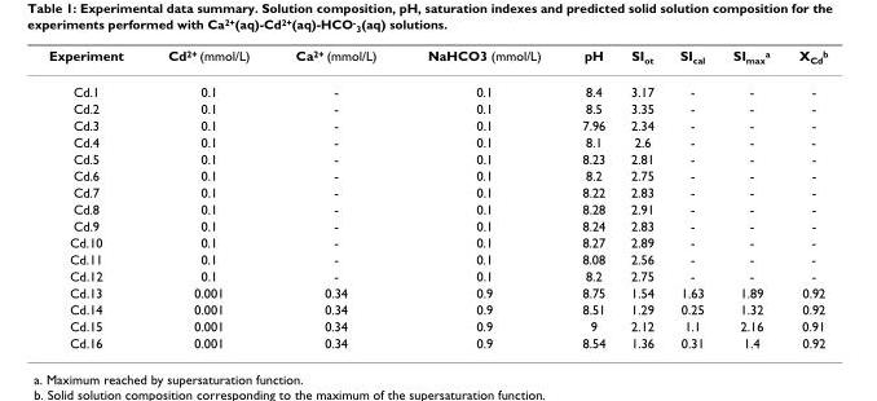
<table><thead><tr><td>Experiment</td><td>Cd<sup>2+</sup> (mmol/L)</td><td>Ca<sup>2+</sup> (mmol/L)</td><td>NaHCO3 (mmol/L)</td><td>pH</td><td>SI<sub>ot</sub></td><td>SI<sub>cal</sub></td><td>SI<sub>max</sub><sup>a</sup></td><td>X<sub>Cd</sub><sup>b</sup></td></tr></thead><tbody><tr><td>Cd.1</td><td>0.1</td><td>-</td><td>0.1</td><td>8.4</td><td>3.17</td><td>-</td><td>-</td><td>-</td></tr><tr><td>Cd.2</td><td>0.1</td><td>-</td><td>0.1</td><td>8.5</td><td>3.35</td><td>-</td><td>-</td><td>-</td></tr><tr><td>Cd.3</td><td>0.1</td><td>-</td><td>0.1</td><td>7.96</td><td>2.34</td><td>-</td><td>-</td><td>-</td></tr><tr><td>Cd.4</td><td>0.1</td><td>-</td><td>0.1</td><td>8.1</td><td>2.6</td><td>-</td><td>-</td><td>-</td></tr><tr><td>Cd.5</td><td>0.1</td><td>-</td><td>0.1</td><td>8.23</td><td>2.81</td><td>-</td><td>-</td><td>-</td></tr><tr><td>Cd.6</td><td>0.1</td><td>-</td><td>0.1</td><td>8.2</td><td>2.75</td><td>-</td><td>-</td><td>-</td></tr><tr><td>Cd.7</td><td>0.1</td><td>-</td><td>0.1</td><td>8.22</td><td>2.83</td><td>-</td><td>-</td><td>-</td></tr><tr><td>Cd.8</td><td>0.1</td><td>-</td><td>0.1</td><td>8.28</td><td>2.91</td><td>-</td><td>-</td><td>-</td></tr><tr><td>Cd.9</td><td>0.1</td><td>-</td><td>0.1</td><td>8.24</td><td>2.83</td><td>-</td><td>-</td><td>-</td></tr><tr><td>Cd.10</td><td>0.1</td><td>-</td><td>0.1</td><td>8.27</td><td>2.89</td><td>-</td><td>-</td><td>-</td></tr><tr><td>Cd.11</td><td>0.1</td><td>-</td><td>0.1</td><td>8.08</td><td>2.56</td><td>-</td><td>-</td><td>-</td></tr><tr><td>Cd.12</td><td>0.1</td><td>-</td><td>0.1</td><td>8.2</td><td>2.75</td><td>-</td><td>-</td><td>-</td></tr><tr><td>Cd.13</td><td>0.001</td><td>0.34</td><td>0.9</td><td>8.75</td><td>1.54</td><td>1.63</td><td>1.89</td><td>0.92</td></tr><tr><td>Cd.14</td><td>0.001</td><td>0.34</td><td>0.9</td><td>8.51</td><td>1.29</td><td>0.25</td><td>1.32</td><td>0.92</td></tr><tr><td>Cd.15</td><td>0.001</td><td>0.34</td><td>0.9</td><td>9</td><td>2.12</td><td>1.1</td><td>2.16</td><td>0.91</td></tr><tr><td>Cd.16</td><td>0.001</td><td>0.34</td><td>0.9</td><td>8.54</td><td>1.36</td><td>0.31</td><td>1.4</td><td>0.92</td></tr></tbody></table>